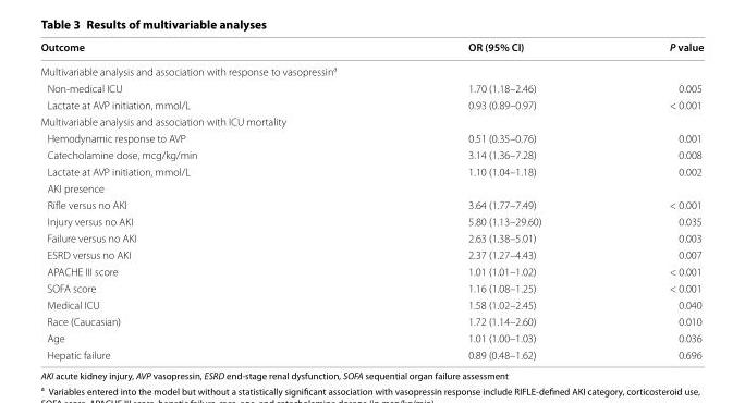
<table><thead><tr><td>Outcome</td><td>OR (95% CI)</td><td>P value</td></tr></thead><tbody><tr><td colspan="3">Multivariable analysis and association with response to vasopressin<sup>a</sup></td></tr><tr><td>Non-medical ICU</td><td>1.70 (1.18–2.46)</td><td>0.005</td></tr><tr><td>Lactate at AVP initiation, mmol/L</td><td>0.93 (0.89–0.97)</td><td>&lt; 0.001</td></tr><tr><td colspan="3">Multivariable analysis and association with ICU mortality</td></tr><tr><td>Hemodynamic response to AVP</td><td>0.51 (0.35–0.76)</td><td>0.001</td></tr><tr><td>Catecholamine dose, mcg/kg/min</td><td>3.14 (1.36–7.28)</td><td>0.008</td></tr><tr><td>Lactate at AVP initiation, mmol/L</td><td>1.10 (1.04–1.18)</td><td>0.002</td></tr><tr><td colspan="3">AKI presence</td></tr><tr><td>Rifle versus no AKI</td><td>3.64 (1.77–7.49)</td><td>&lt; 0.001</td></tr><tr><td>Injury versus no AKI</td><td>5.80 (1.13–29.60)</td><td>0.035</td></tr><tr><td>Failure versus no AKI</td><td>2.63 (1.38–5.01)</td><td>0.003</td></tr><tr><td>ESRD versus no AKI</td><td>2.37 (1.27–4.43)</td><td>0.007</td></tr><tr><td>APACHE III score</td><td>1.01 (1.01–1.02)</td><td>&lt; 0.001</td></tr><tr><td>SOFA score</td><td>1.16 (1.08–1.25)</td><td>&lt; 0.001</td></tr><tr><td>Medical ICU</td><td>1.58 (1.02–2.45)</td><td>0.040</td></tr><tr><td>Race (Caucasian)</td><td>1.72 (1.14–2.60)</td><td>0.010</td></tr><tr><td>Age</td><td>1.01 (1.00–1.03)</td><td>0.036</td></tr><tr><td>Hepatic failure</td><td>0.89 (0.48–1.62)</td><td>0.696</td></tr></tbody></table>